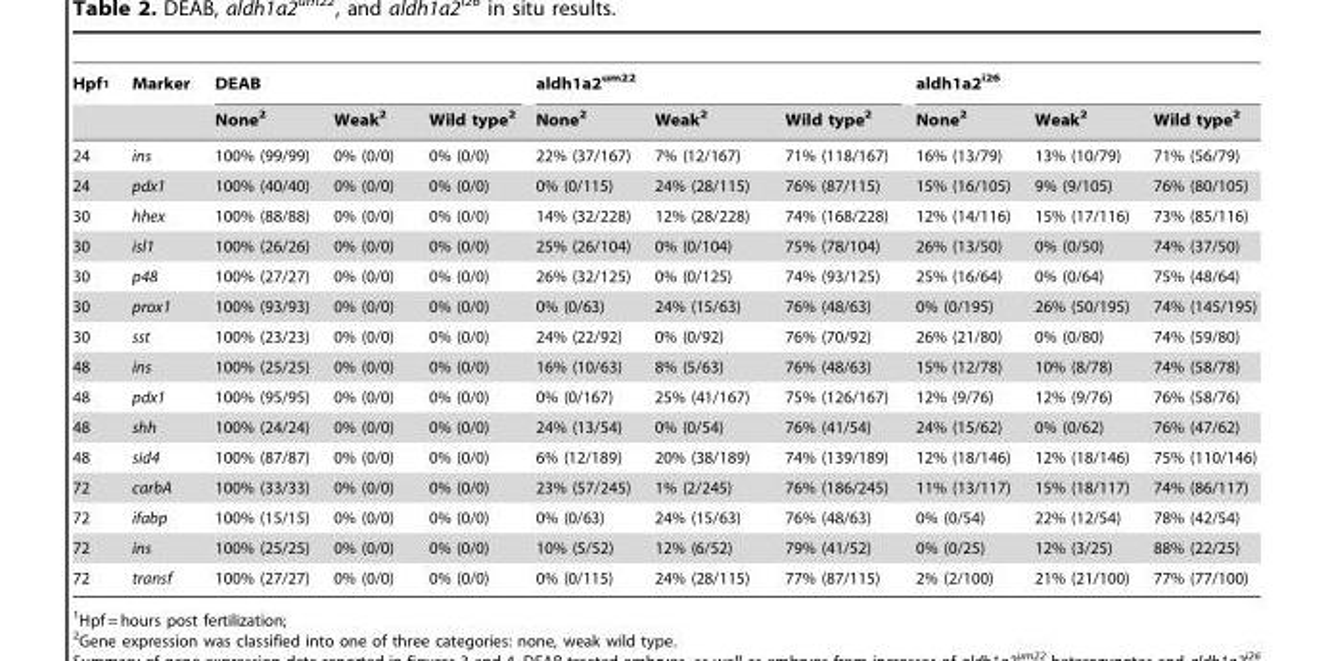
<table><thead><tr><td rowspan="2">Hpf<sup>1</sup></td><td rowspan="2">Marker</td><td colspan="3">DEAB</td><td colspan="3">aldh1a2<sup>um22</sup></td><td colspan="3">aldh1a2<sup>i26</sup></td></tr><tr><td>None<sup>2</sup></td><td>Weak<sup>2</sup></td><td>Wild type<sup>2</sup></td><td>None<sup>2</sup></td><td>Weak<sup>2</sup></td><td>Wild type<sup>2</sup></td><td>None<sup>2</sup></td><td>Weak<sup>2</sup></td><td>Wild type<sup>2</sup></td></tr></thead><tbody><tr><td>24</td><td>ins</td><td>100% (99/99)</td><td>0% (0/0)</td><td>0% (0/0)</td><td>22% (37/167)</td><td>7% (12/167)</td><td>71% (118/167)</td><td>16% (13/79)</td><td>13% (10/79)</td><td>71% (56/79)</td></tr><tr><td>24</td><td>pdx1</td><td>100% (40/40)</td><td>0% (0/0)</td><td>0% (0/0)</td><td>0% (0/115)</td><td>24% (28/115)</td><td>76% (87/115)</td><td>15% (16/105)</td><td>9% (9/105)</td><td>76% (80/105)</td></tr><tr><td>30</td><td>hhex</td><td>100% (88/88)</td><td>0% (0/0)</td><td>0% (0/0)</td><td>14% (32/228)</td><td>12% (28/228)</td><td>74% (168/228)</td><td>12% (14/116)</td><td>15% (17/116)</td><td>73% (85/116)</td></tr><tr><td>30</td><td>isl1</td><td>100% (26/26)</td><td>0% (0/0)</td><td>0% (0/0)</td><td>25% (26/104)</td><td>0% (0/104)</td><td>75% (78/104)</td><td>26% (13/50)</td><td>0% (0/50)</td><td>74% (37/50)</td></tr><tr><td>30</td><td>p48</td><td>100% (27/27)</td><td>0% (0/0)</td><td>0% (0/0)</td><td>26% (32/125)</td><td>0% (0/125)</td><td>74% (93/125)</td><td>25% (16/64)</td><td>0% (0/64)</td><td>75% (48/64)</td></tr><tr><td>30</td><td>prox1</td><td>100% (93/93)</td><td>0% (0/0)</td><td>0% (0/0)</td><td>0% (0/63)</td><td>24% (15/63)</td><td>76% (48/63)</td><td>0% (0/195)</td><td>26% (50/195)</td><td>74% (145/195)</td></tr><tr><td>30</td><td>sst</td><td>100% (23/23)</td><td>0% (0/0)</td><td>0% (0/0)</td><td>24% (22/92)</td><td>0% (0/92)</td><td>76% (70/92)</td><td>26% (21/80)</td><td>0% (0/80)</td><td>74% (59/80)</td></tr><tr><td>48</td><td>ins</td><td>100% (25/25)</td><td>0% (0/0)</td><td>0% (0/0)</td><td>16% (10/63)</td><td>8% (5/63)</td><td>76% (48/63)</td><td>15% (12/78)</td><td>10% (8/78)</td><td>74% (58/78)</td></tr><tr><td>48</td><td>pdx1</td><td>100% (95/95)</td><td>0% (0/0)</td><td>0% (0/0)</td><td>0% (0/167)</td><td>25% (41/167)</td><td>75% (126/167)</td><td>12% (9/76)</td><td>12% (9/76)</td><td>76% (58/76)</td></tr><tr><td>48</td><td>shh</td><td>100% (24/24)</td><td>0% (0/0)</td><td>0% (0/0)</td><td>24% (13/54)</td><td>0% (0/54)</td><td>76% (41/54)</td><td>24% (15/62)</td><td>0% (0/62)</td><td>76% (47/62)</td></tr><tr><td>48</td><td>sid4</td><td>100% (87/87)</td><td>0% (0/0)</td><td>0% (0/0)</td><td>6% (12/189)</td><td>20% (38/189)</td><td>74% (139/189)</td><td>12% (18/146)</td><td>12% (18/146)</td><td>75% (110/146)</td></tr><tr><td>72</td><td>carbA</td><td>100% (33/33)</td><td>0% (0/0)</td><td>0% (0/0)</td><td>23% (57/245)</td><td>1% (2/245)</td><td>76% (186/245)</td><td>11% (13/117)</td><td>15% (18/117)</td><td>74% (86/117)</td></tr><tr><td>72</td><td>ifabp</td><td>100% (15/15)</td><td>0% (0/0)</td><td>0% (0/0)</td><td>0% (0/63)</td><td>24% (15/63)</td><td>76% (48/63)</td><td>0% (0/54)</td><td>22% (12/54)</td><td>78% (42/54)</td></tr><tr><td>72</td><td>ins</td><td>100% (25/25)</td><td>0% (0/0)</td><td>0% (0/0)</td><td>10% (5/52)</td><td>12% (6/52)</td><td>79% (41/52)</td><td>0% (0/25)</td><td>12% (3/25)</td><td>88% (22/25)</td></tr><tr><td>72</td><td>transf</td><td>100% (27/27)</td><td>0% (0/0)</td><td>0% (0/0)</td><td>0% (0/115)</td><td>24% (28/115)</td><td>77% (87/115)</td><td>2% (2/100)</td><td>21% (21/100)</td><td>77% (77/100)</td></tr></tbody></table>